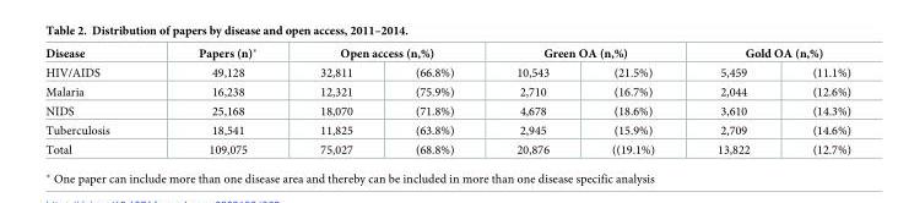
<table><thead><tr><td rowspan="2">Disease HIV/AIDS</td><td rowspan="2">Papers (n)* 49,128</td><td colspan="2">Open access (n,%)</td><td colspan="2">Green OA (n,%)</td><td colspan="2">Gold OA (n,%)</td></tr><tr><td>32,811</td><td>(66.8%)</td><td>10,543</td><td>(21.5%)</td><td>5,459</td><td>(11.1%)</td></tr></thead><tbody><tr><td>Malaria</td><td>16,238</td><td>12,321</td><td>(75.9%)</td><td>2,710</td><td>(16.7%)</td><td>2,044</td><td>(12.6%)</td></tr><tr><td>NIDS</td><td>25,168</td><td>18,070</td><td>(71.8%)</td><td>4,678</td><td>(18.6%)</td><td>3,610</td><td>(14.3%)</td></tr><tr><td>Tuberculosis</td><td>18,541</td><td>11,825</td><td>(63.8%)</td><td>2,945</td><td>(15.9%)</td><td>2,709</td><td>(14.6%)</td></tr><tr><td>Total</td><td>109,075</td><td>75,027</td><td>(68.8%)</td><td>20,876</td><td>((19.1%)</td><td>13,822</td><td>(12.7%)</td></tr></tbody></table>